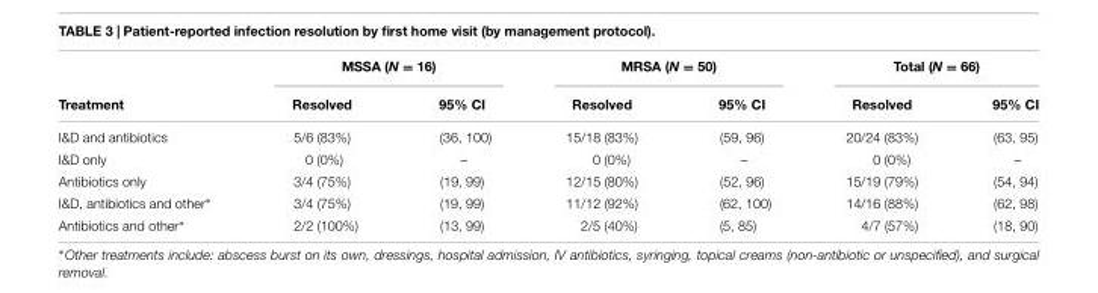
<table><thead><tr><td rowspan="2">Treatment</td><td colspan="2">MSSA (N = 16)</td><td colspan="2">MRSA (N = 50)</td><td colspan="2">Total (N = 66)</td></tr><tr><td>Resolved</td><td>95% CI</td><td>Resolved</td><td>95% CI</td><td>Resolved</td><td>95% CI</td></tr></thead><tbody><tr><td>I&amp;D and antibiotics</td><td>5/6 (83%)</td><td>(36, 100)</td><td>15/18 (83%)</td><td>(59, 96)</td><td>20/24 (83%)</td><td>(63, 95)</td></tr><tr><td>I&amp;D only</td><td>0 (0%)</td><td>–</td><td>0 (0%)</td><td>–</td><td>0 (0%)</td><td>–</td></tr><tr><td>Antibiotics only</td><td>3/4 (75%)</td><td>(19, 99)</td><td>12/15 (80%)</td><td>(52, 96)</td><td>15/19 (79%)</td><td>(54, 94)</td></tr><tr><td>I&amp;D, antibiotics and other∗</td><td>3/4 (75%)</td><td>(19, 99)</td><td>11/12 (92%)</td><td>(62, 100)</td><td>14/16 (88%)</td><td>(62, 98)</td></tr><tr><td>Antibiotics and other∗</td><td>2/2 (100%)</td><td>(13, 99)</td><td>2/5 (40%)</td><td>(5, 85)</td><td>4/7 (57%)</td><td>(18, 90)</td></tr></tbody></table>